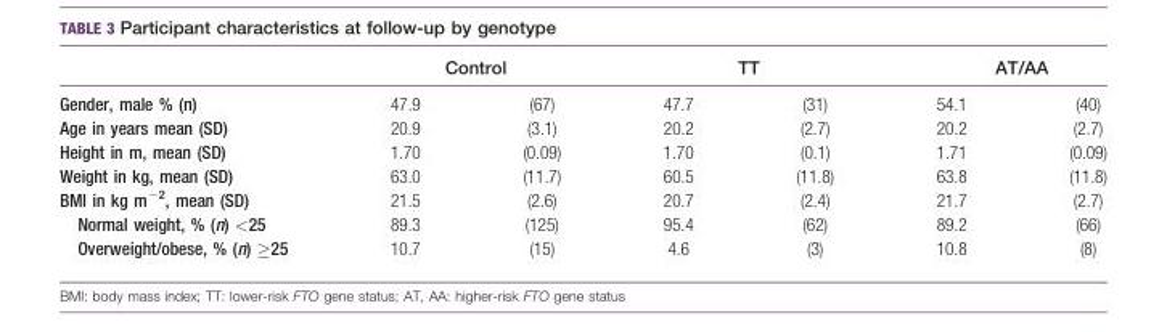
<table><thead><tr><td rowspan="2">Gender, male % (n)</td><td colspan="2">Control</td><td colspan="2">TT</td><td colspan="2">AT/AA</td></tr><tr><td>47.9</td><td>(67)</td><td>47.7</td><td>(31)</td><td>54.1</td><td>(40)</td></tr></thead><tbody><tr><td>Age in years mean (SD)</td><td>20.9</td><td>(3.1)</td><td>20.2</td><td>(2.7)</td><td>20.2</td><td>(2.7)</td></tr><tr><td>Height in m, mean (SD)</td><td>1.70</td><td>(0.09)</td><td>1.70</td><td>(0.1)</td><td>1.71</td><td>(0.09)</td></tr><tr><td>Weight in kg, mean (SD)</td><td>63.0</td><td>(11.7)</td><td>60.5</td><td>(11.8)</td><td>63.8</td><td>(11.8)</td></tr><tr><td>BMI in kg m<sup>−2</sup>, mean (SD)</td><td>21.5</td><td>(2.6)</td><td>20.7</td><td>(2.4)</td><td>21.7</td><td>(2.7)</td></tr><tr><td>Normal weight, % (n) &lt;25</td><td>89.3</td><td>(125)</td><td>95.4</td><td>(62)</td><td>89.2</td><td>(66)</td></tr><tr><td>Overweight/obese, % (n) ≥25</td><td>10.7</td><td>(15)</td><td>4.6</td><td>(3)</td><td>10.8</td><td>(8)</td></tr></tbody></table>